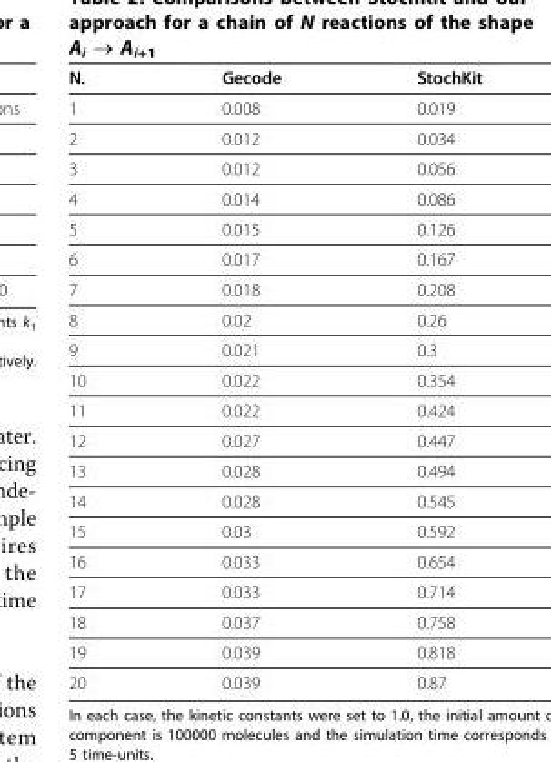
<table><thead><tr><td>N.</td><td>Gecode</td><td>StochKit</td></tr></thead><tbody><tr><td>1</td><td>0.008</td><td>0.019</td></tr><tr><td>2</td><td>0.012</td><td>0.034</td></tr><tr><td>3</td><td>0.012</td><td>0.056</td></tr><tr><td>4</td><td>0.014</td><td>0.086</td></tr><tr><td>5</td><td>0.015</td><td>0.126</td></tr><tr><td>6</td><td>0.017</td><td>0.167</td></tr><tr><td>7</td><td>0.018</td><td>0.208</td></tr><tr><td>8</td><td>0.02</td><td>0.26</td></tr><tr><td>9</td><td>0.021</td><td>0.3</td></tr><tr><td>10</td><td>0.022</td><td>0.354</td></tr><tr><td>11</td><td>0.022</td><td>0.424</td></tr><tr><td>12</td><td>0.027</td><td>0.447</td></tr><tr><td>13</td><td>0.028</td><td>0.494</td></tr><tr><td>14</td><td>0.028</td><td>0.545</td></tr><tr><td>15</td><td>0.03</td><td>0.592</td></tr><tr><td>16</td><td>0.033</td><td>0.654</td></tr><tr><td>17</td><td>0.033</td><td>0.714</td></tr><tr><td>18</td><td>0.037</td><td>0.758</td></tr><tr><td>19</td><td>0.039</td><td>0.818</td></tr><tr><td>20</td><td>0.039</td><td>0.87</td></tr></tbody></table>